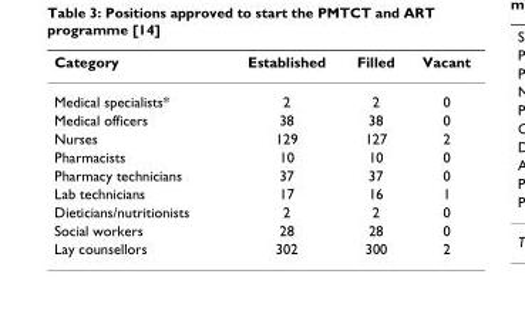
<table><thead><tr><td>Category</td><td>Established</td><td>Filled</td><td>Vacant</td></tr></thead><tbody><tr><td>Medical specialists*</td><td>2</td><td>2</td><td>0</td></tr><tr><td>Medical officers</td><td>38</td><td>38</td><td>0</td></tr><tr><td>Nurses</td><td>129</td><td>127</td><td>2</td></tr><tr><td>Pharmacists</td><td>10</td><td>10</td><td>0</td></tr><tr><td>Pharmacy technicians</td><td>37</td><td>37</td><td>0</td></tr><tr><td>Lab technicians</td><td>17</td><td>16</td><td>1</td></tr><tr><td>Dieticians/nutritionists</td><td>2</td><td>2</td><td>0</td></tr><tr><td>Social workers</td><td>28</td><td>28</td><td>0</td></tr><tr><td>Lay counsellors</td><td>302</td><td>300</td><td>2</td></tr></tbody></table>